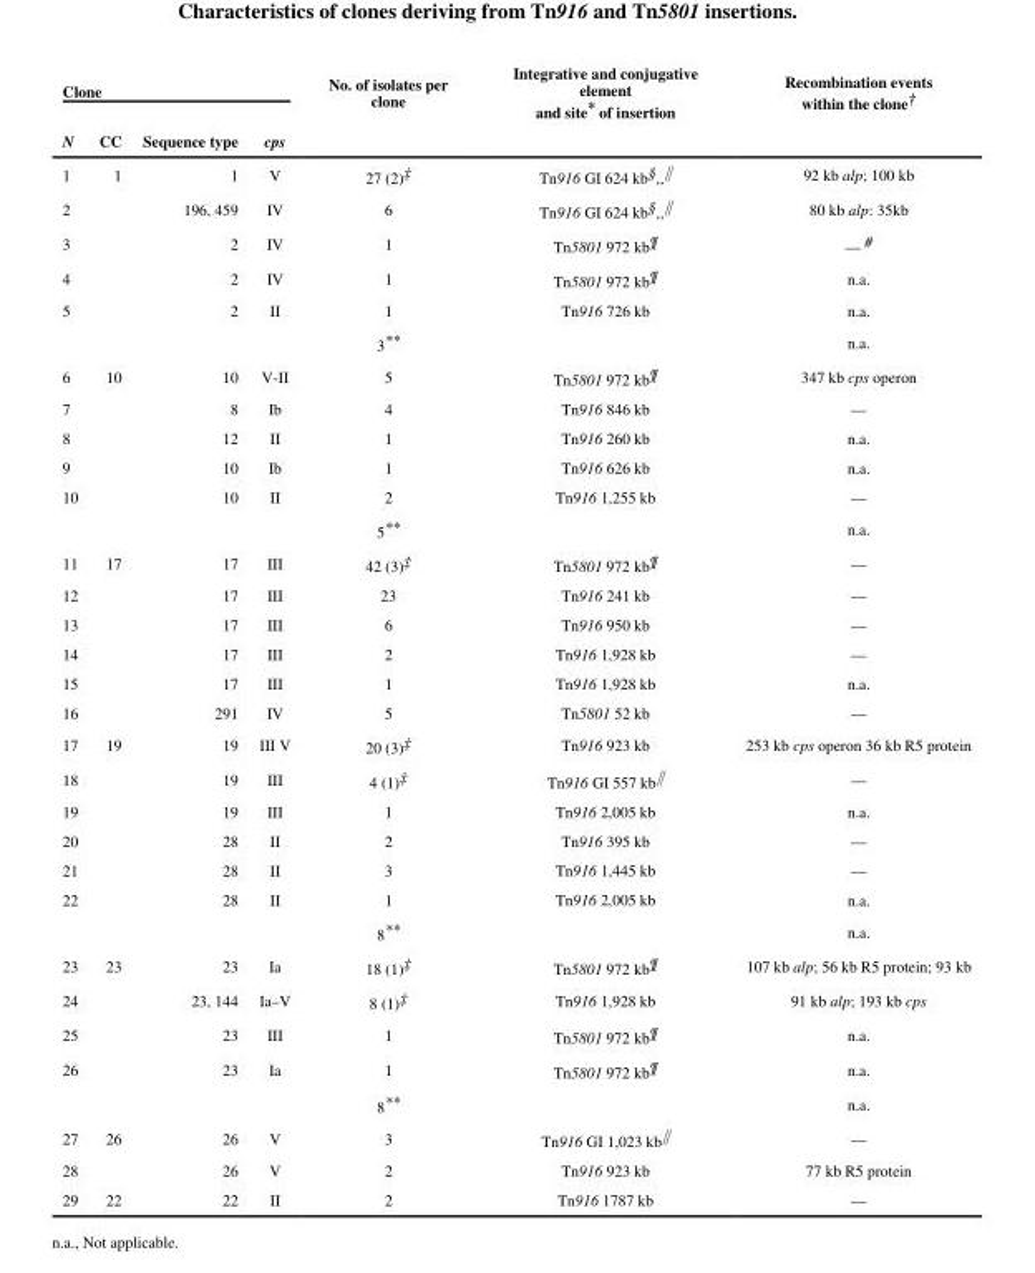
<table><thead><tr><td colspan="4">Clone</td><td rowspan="2">No. of isolates per clone</td><td rowspan="2">Integrative and conjugative element and site* of insertion</td><td rowspan="2">Recombination events within the clone†</td></tr><tr><td>N</td><td>CC</td><td>Sequence type</td><td>cps</td></tr></thead><tbody><tr><td>1</td><td>1</td><td>1</td><td>V</td><td>27 (2)‡</td><td>Tn916 GI 624 kb§,,∥</td><td>92 kb alp; 100 kb</td></tr><tr><td>2</td><td></td><td>196, 459</td><td>IV</td><td>6</td><td>Tn916 GI 624 kb§,,∥</td><td>80 kb alp: 35kb</td></tr><tr><td>3</td><td></td><td>2</td><td>IV</td><td>1</td><td>Tn5801 972 kb¶</td><td>— #</td></tr><tr><td>4</td><td></td><td>2</td><td>IV</td><td>1</td><td>Tn5801 972 kb¶</td><td>n.a.</td></tr><tr><td rowspan="2">5</td><td></td><td>2</td><td>II</td><td>1</td><td>Tn916 726 kb</td><td>n.a.</td></tr><tr><td></td><td></td><td></td><td>3**</td><td></td><td>n.a.</td></tr><tr><td>6</td><td>10</td><td>10</td><td>V-II</td><td>5</td><td>Tn5801 972 kb¶</td><td>347 kb cps operon</td></tr><tr><td>7</td><td></td><td>8</td><td>Ib</td><td>4</td><td>Tn916 846 kb</td><td>—</td></tr><tr><td>8</td><td></td><td>12</td><td>II</td><td>1</td><td>Tn916 260 kb</td><td>n.a.</td></tr><tr><td>9</td><td></td><td>10</td><td>Ib</td><td>1</td><td>Tn916 626 kb</td><td>n.a.</td></tr><tr><td rowspan="2">10</td><td></td><td>10</td><td>II</td><td>2</td><td>Tn916 1,255 kb</td><td>—</td></tr><tr><td></td><td></td><td></td><td>5**</td><td></td><td>n.a.</td></tr><tr><td>11</td><td>17</td><td>17</td><td>III</td><td>42 (3)‡</td><td>Tn5801 972 kb¶</td><td>—</td></tr><tr><td>12</td><td></td><td>17</td><td>III</td><td>23</td><td>Tn916 241 kb</td><td>—</td></tr><tr><td>13</td><td></td><td>17</td><td>III</td><td>6</td><td>Tn916 950 kb</td><td>—</td></tr><tr><td>14</td><td></td><td>17</td><td>III</td><td>2</td><td>Tn916 1,928 kb</td><td>—</td></tr><tr><td>15</td><td></td><td>17</td><td>III</td><td>1</td><td>Tn916 1,928 kb</td><td>n.a.</td></tr><tr><td>16</td><td></td><td>291</td><td>IV</td><td>5</td><td>Tn5801 52 kb</td><td>—</td></tr><tr><td>17</td><td>19</td><td>19</td><td>III V</td><td>20 (3)‡</td><td>Tn916 923 kb</td><td>253 kb cps operon 36 kb R5 protein</td></tr><tr><td>18</td><td></td><td>19</td><td>III</td><td>4 (1)‡</td><td>Tn916 GI 557 kb∥</td><td>—</td></tr><tr><td>19</td><td></td><td>19</td><td>III</td><td>1</td><td>Tn916 2,005 kb</td><td>n.a.</td></tr><tr><td>20</td><td></td><td>28</td><td>II</td><td>2</td><td>Tn916 395 kb</td><td>—</td></tr><tr><td>21</td><td></td><td>28</td><td>II</td><td>3</td><td>Tn916 1,445 kb</td><td>—</td></tr><tr><td rowspan="2">22</td><td></td><td>28</td><td>II</td><td>1</td><td>Tn916 2,005 kb</td><td>n.a.</td></tr><tr><td></td><td></td><td></td><td>8**</td><td></td><td>n.a.</td></tr><tr><td>23</td><td>23</td><td>23</td><td>Ia</td><td>18 (1)‡</td><td>Tn5801 972 kb¶</td><td>107 kb alp; 56 kb R5 protein; 93 kb</td></tr><tr><td>24</td><td></td><td>23, 144</td><td>Ia–V</td><td>8 (1)‡</td><td>Tn916 1,928 kb</td><td>91 kb alp; 193 kb cps</td></tr><tr><td>25</td><td></td><td>23</td><td>III</td><td>1</td><td>Tn5801 972 kb¶</td><td>n.a.</td></tr><tr><td rowspan="2">26</td><td></td><td>23</td><td>Ia</td><td>1</td><td>Tn5801 972 kb¶</td><td>n.a.</td></tr><tr><td></td><td></td><td></td><td>8**</td><td></td><td>n.a.</td></tr><tr><td>27</td><td>26</td><td>26</td><td>V</td><td>3</td><td>Tn916 GI 1,023 kb∥</td><td>—</td></tr><tr><td>28</td><td></td><td>26</td><td>V</td><td>2</td><td>Tn916 923 kb</td><td>77 kb R5 protein</td></tr><tr><td>29</td><td>22</td><td>22</td><td>II</td><td>2</td><td>Tn916 1787 kb</td><td>—</td></tr></tbody></table>